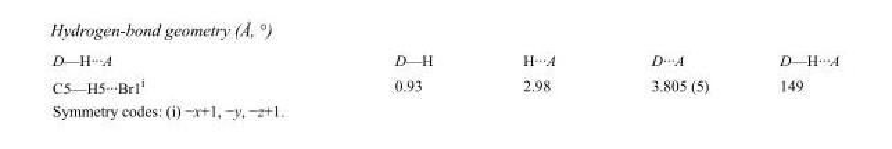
<table><tbody><tr><td>D—H···A</td><td>D—H</td><td>H···A</td><td>D···A</td><td>D—H···A</td></tr><tr><td>C5—H5···Br1<sup>i</sup></td><td>0.93</td><td>2.98</td><td>3.805 (5)</td><td>149</td></tr></tbody></table>